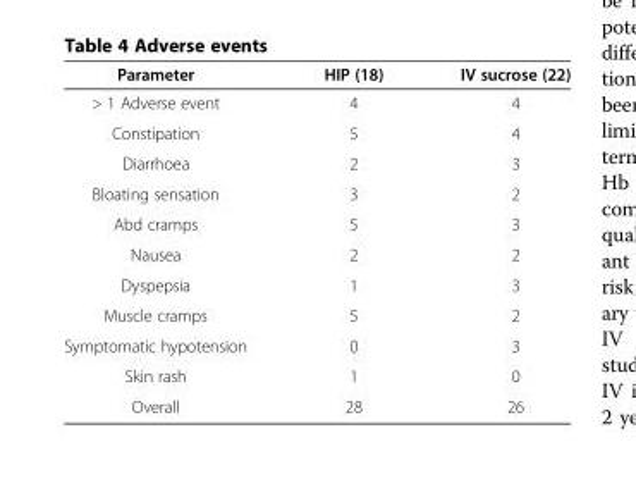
<table><thead><tr><td>Parameter</td><td>HIP (18)</td><td>IV sucrose (22)</td></tr></thead><tbody><tr><td>&gt; 1 Adverse event</td><td>4</td><td>4</td></tr><tr><td>Constipation</td><td>5</td><td>4</td></tr><tr><td>Diarrhoea</td><td>2</td><td>3</td></tr><tr><td>Bloating sensation</td><td>3</td><td>2</td></tr><tr><td>Abd cramps</td><td>5</td><td>3</td></tr><tr><td>Nausea</td><td>2</td><td>2</td></tr><tr><td>Dyspepsia</td><td>1</td><td>3</td></tr><tr><td>Muscle cramps</td><td>5</td><td>2</td></tr><tr><td>Symptomatic hypotension</td><td>0</td><td>3</td></tr><tr><td>Skin rash</td><td>1</td><td>0</td></tr><tr><td>Overall</td><td>28</td><td>26</td></tr></tbody></table>